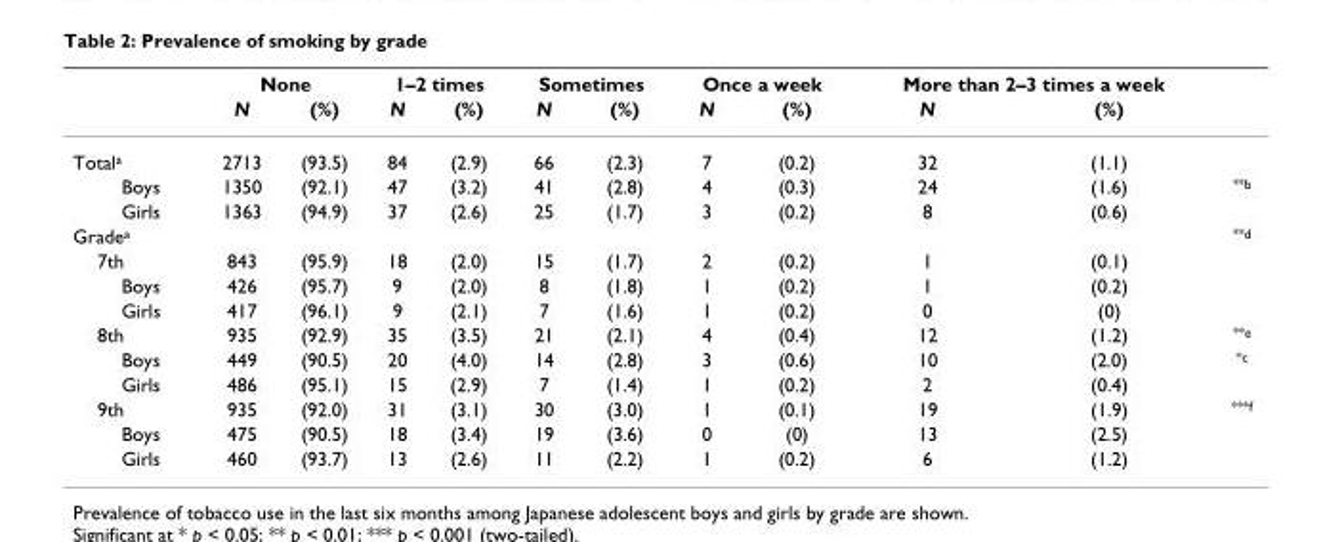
<table><thead><tr><td rowspan="2"></td><td colspan="2">None</td><td colspan="2">1–2 times</td><td colspan="2">Sometimes</td><td colspan="2">Once a week</td><td colspan="2">More than 2–3 times a week</td><td rowspan="2"></td></tr><tr><td>N</td><td>(%)</td><td>N</td><td>(%)</td><td>N</td><td>(%)</td><td>N</td><td>(%)</td><td>N</td><td>(%)</td></tr></thead><tbody><tr><td>Total<sup>a</sup></td><td>2713</td><td>(93.5)</td><td>84</td><td>(2.9)</td><td>66</td><td>(2.3)</td><td>7</td><td>(0.2)</td><td>32</td><td>(1.1)</td><td></td></tr><tr><td>Boys</td><td>1350</td><td>(92.1)</td><td>47</td><td>(3.2)</td><td>41</td><td>(2.8)</td><td>4</td><td>(0.3)</td><td>24</td><td>(1.6)</td><td><sup>**b</sup></td></tr><tr><td>Girls</td><td>1363</td><td>(94.9)</td><td>37</td><td>(2.6)</td><td>25</td><td>(1.7)</td><td>3</td><td>(0.2)</td><td>8</td><td>(0.6)</td><td></td></tr><tr><td>Grade<sup>a</sup></td><td></td><td></td><td></td><td></td><td></td><td></td><td></td><td></td><td></td><td></td><td><sup>**d</sup></td></tr><tr><td>7th</td><td>843</td><td>(95.9)</td><td>18</td><td>(2.0)</td><td>15</td><td>(1.7)</td><td>2</td><td>(0.2)</td><td>1</td><td>(0.1)</td><td></td></tr><tr><td>Boys</td><td>426</td><td>(95.7)</td><td>9</td><td>(2.0)</td><td>8</td><td>(1.8)</td><td>1</td><td>(0.2)</td><td>1</td><td>(0.2)</td><td></td></tr><tr><td>Girls</td><td>417</td><td>(96.1)</td><td>9</td><td>(2.1)</td><td>7</td><td>(1.6)</td><td>1</td><td>(0.2)</td><td>0</td><td>(0)</td><td></td></tr><tr><td>8th</td><td>935</td><td>(92.9)</td><td>35</td><td>(3.5)</td><td>21</td><td>(2.1)</td><td>4</td><td>(0.4)</td><td>12</td><td>(1.2)</td><td><sup>**e</sup></td></tr><tr><td>Boys</td><td>449</td><td>(90.5)</td><td>20</td><td>(4.0)</td><td>14</td><td>(2.8)</td><td>3</td><td>(0.6)</td><td>10</td><td>(2.0)</td><td><sup>*c</sup></td></tr><tr><td>Girls</td><td>486</td><td>(95.1)</td><td>15</td><td>(2.9)</td><td>7</td><td>(1.4)</td><td>1</td><td>(0.2)</td><td>2</td><td>(0.4)</td><td></td></tr><tr><td>9th</td><td>935</td><td>(92.0)</td><td>31</td><td>(3.1)</td><td>30</td><td>(3.0)</td><td>1</td><td>(0.1)</td><td>19</td><td>(1.9)</td><td><sup>***f</sup></td></tr><tr><td>Boys</td><td>475</td><td>(90.5)</td><td>18</td><td>(3.4)</td><td>19</td><td>(3.6)</td><td>0</td><td>(0)</td><td>13</td><td>(2.5)</td><td></td></tr><tr><td>Girls</td><td>460</td><td>(93.7)</td><td>13</td><td>(2.6)</td><td>11</td><td>(2.2)</td><td>1</td><td>(0.2)</td><td>6</td><td>(1.2)</td><td></td></tr></tbody></table>